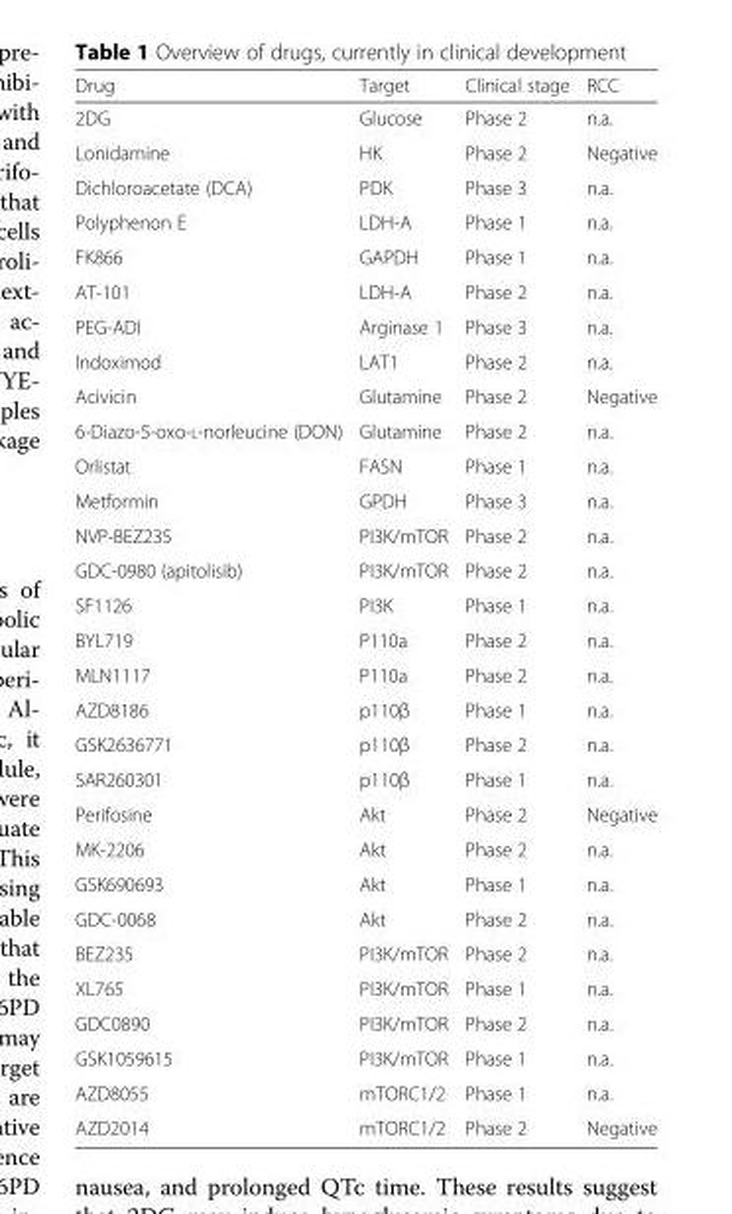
<table><thead><tr><td>Drug</td><td>Target</td><td>Clinical stage</td><td>RCC</td></tr></thead><tbody><tr><td>2DG</td><td>Glucose</td><td>Phase 2</td><td>n.a.</td></tr><tr><td>Lonidamine</td><td>HK</td><td>Phase 2</td><td>Negative</td></tr><tr><td>Dichloroacetate (DCA)</td><td>PDK</td><td>Phase 3</td><td>n.a.</td></tr><tr><td>Polyphenon E</td><td>LDH-A</td><td>Phase 1</td><td>n.a.</td></tr><tr><td>FK866</td><td>GAPDH</td><td>Phase 1</td><td>n.a.</td></tr><tr><td>AT-101</td><td>LDH-A</td><td>Phase 2</td><td>n.a.</td></tr><tr><td>PEG-ADI</td><td>Arginase 1</td><td>Phase 3</td><td>n.a.</td></tr><tr><td>Indoximod</td><td>LAT1</td><td>Phase 2</td><td>n.a.</td></tr><tr><td>Acivicin</td><td>Glutamine</td><td>Phase 2</td><td>Negative</td></tr><tr><td>6-Diazo-5-oxo-L-norleucine (DON)</td><td>Glutamine</td><td>Phase 2</td><td>n.a.</td></tr><tr><td>Orlistat</td><td>FASN</td><td>Phase 1</td><td>n.a.</td></tr><tr><td>Metformin</td><td>GPDH</td><td>Phase 3</td><td>n.a.</td></tr><tr><td>NVP-BEZ235</td><td>PI3K/mTOR</td><td>Phase 2</td><td>n.a.</td></tr><tr><td>GDC-0980 (apitolisib)</td><td>PI3K/mTOR</td><td>Phase 2</td><td>n.a.</td></tr><tr><td>SF1126</td><td>PI3K</td><td>Phase 1</td><td>n.a.</td></tr><tr><td>BYL719</td><td>P110a</td><td>Phase 2</td><td>n.a.</td></tr><tr><td>MLN1117</td><td>P110a</td><td>Phase 2</td><td>n.a.</td></tr><tr><td>AZD8186</td><td>p110β</td><td>Phase 1</td><td>n.a.</td></tr><tr><td>GSK2636771</td><td>p110β</td><td>Phase 2</td><td>n.a.</td></tr><tr><td>SAR260301</td><td>p110β</td><td>Phase 1</td><td>n.a.</td></tr><tr><td>Perifosine</td><td>Akt</td><td>Phase 2</td><td>Negative</td></tr><tr><td>MK-2206</td><td>Akt</td><td>Phase 2</td><td>n.a.</td></tr><tr><td>GSK690693</td><td>Akt</td><td>Phase 1</td><td>n.a.</td></tr><tr><td>GDC-0068</td><td>Akt</td><td>Phase 2</td><td>n.a.</td></tr><tr><td>BEZ235</td><td>PI3K/mTOR</td><td>Phase 2</td><td>n.a.</td></tr><tr><td>XL765</td><td>PI3K/mTOR</td><td>Phase 1</td><td>n.a.</td></tr><tr><td>GDC0890</td><td>PI3K/mTOR</td><td>Phase 2</td><td>n.a.</td></tr><tr><td>GSK1059615</td><td>PI3K/mTOR</td><td>Phase 1</td><td>n.a.</td></tr><tr><td>AZD8055</td><td>mTORC1/2</td><td>Phase 1</td><td>n.a.</td></tr><tr><td>AZD2014</td><td>mTORC1/2</td><td>Phase 2</td><td>Negative</td></tr></tbody></table>